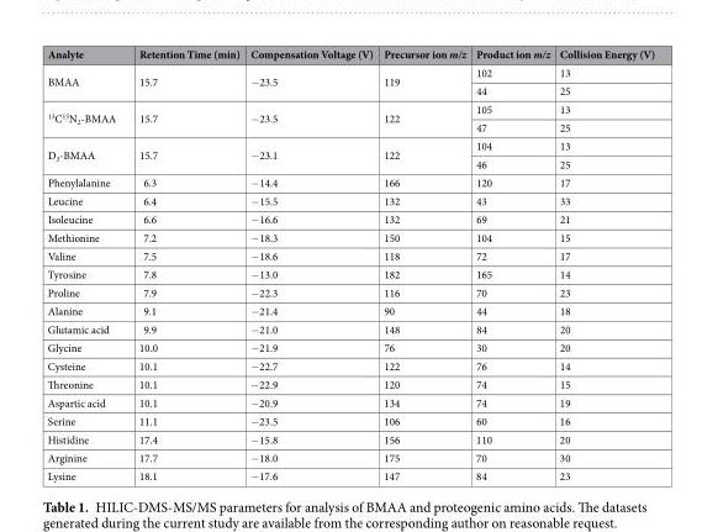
<table><thead><tr><td>Analyte</td><td>Retention Time (min)</td><td>Compensation Voltage (V)</td><td>Precursor ion m/z</td><td>Product ion m/z</td><td>Collision Energy (V)</td></tr></thead><tbody><tr><td rowspan="2">BMAA</td><td rowspan="2">15.7</td><td rowspan="2">−23.5</td><td rowspan="2">119</td><td>102</td><td>13</td></tr><tr><td>44</td><td>25</td></tr><tr><td rowspan="2"><sup>13</sup>C<sup>15</sup>N<sub>2</sub>-BMAA</td><td rowspan="2">15.7</td><td rowspan="2">−23.5</td><td rowspan="2">122</td><td>105</td><td>13</td></tr><tr><td>47</td><td>25</td></tr><tr><td rowspan="2">D<sub>3</sub>-BMAA</td><td rowspan="2">15.7</td><td rowspan="2">−23.1</td><td rowspan="2">122</td><td>104</td><td>13</td></tr><tr><td>46</td><td>25</td></tr><tr><td>Phenylalanine</td><td>6.3</td><td>−14.4</td><td>166</td><td>120</td><td>17</td></tr><tr><td>Leucine</td><td>6.4</td><td>−15.5</td><td>132</td><td>43</td><td>33</td></tr><tr><td>Isoleucine</td><td>6.6</td><td>−16.6</td><td>132</td><td>69</td><td>21</td></tr><tr><td>Methionine</td><td>7.2</td><td>−18.3</td><td>150</td><td>104</td><td>15</td></tr><tr><td>Valine</td><td>7.5</td><td>−18.6</td><td>118</td><td>72</td><td>17</td></tr><tr><td>Tyrosine</td><td>7.8</td><td>−13.0</td><td>182</td><td>165</td><td>14</td></tr><tr><td>Proline</td><td>7.9</td><td>−22.3</td><td>116</td><td>70</td><td>23</td></tr><tr><td>Alanine</td><td>9.1</td><td>−21.4</td><td>90</td><td>44</td><td>18</td></tr><tr><td>Glutamic acid</td><td>9.9</td><td>−21.0</td><td>148</td><td>84</td><td>20</td></tr><tr><td>Glycine</td><td>10.0</td><td>−21.9</td><td>76</td><td>30</td><td>20</td></tr><tr><td>Cysteine</td><td>10.1</td><td>−22.7</td><td>122</td><td>76</td><td>14</td></tr><tr><td>Threonine</td><td>10.1</td><td>−22.9</td><td>120</td><td>74</td><td>15</td></tr><tr><td>Aspartic acid</td><td>10.1</td><td>−20.9</td><td>134</td><td>74</td><td>19</td></tr><tr><td>Serine</td><td>11.1</td><td>−23.5</td><td>106</td><td>60</td><td>16</td></tr><tr><td>Histidine</td><td>17.4</td><td>−15.8</td><td>156</td><td>110</td><td>20</td></tr><tr><td>Arginine</td><td>17.7</td><td>−18.0</td><td>175</td><td>70</td><td>30</td></tr><tr><td>Lysine</td><td>18.1</td><td>−17.6</td><td>147</td><td>84</td><td>23</td></tr></tbody></table>